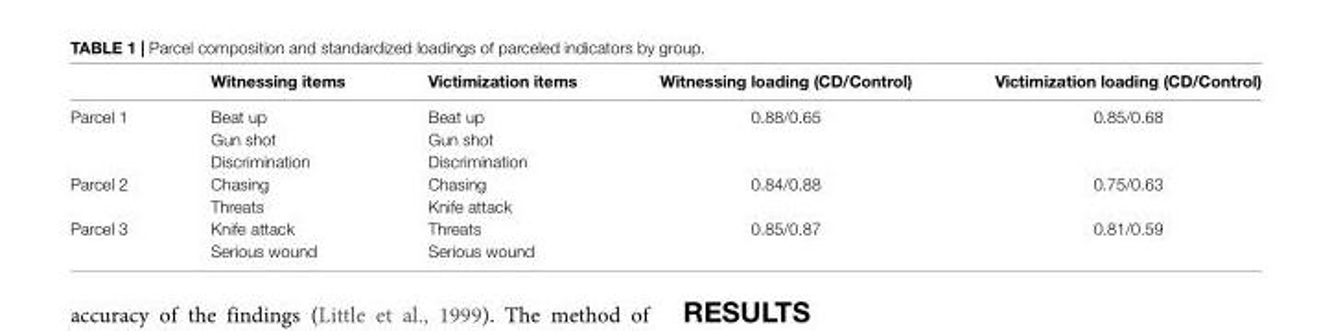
<table><thead><tr><td></td><td>Witnessing items</td><td>Victimization items</td><td>Witnessing loading (CD/Control)</td><td>Victimization loading (CD/Control)</td></tr></thead><tbody><tr><td rowspan="3">Parcel 1</td><td>Beat up</td><td>Beat up</td><td>0.88/0.65</td><td>0.85/0.68</td></tr><tr><td>Gun shot</td><td>Gun shot</td><td></td><td></td></tr><tr><td>Discrimination</td><td>Discrimination</td><td></td><td></td></tr><tr><td rowspan="2">Parcel 2</td><td>Chasing</td><td>Chasing</td><td>0.84/0.88</td><td>0.75/0.63</td></tr><tr><td>Threats</td><td>Knife attack</td><td></td><td></td></tr><tr><td rowspan="2">Parcel 3</td><td>Knife attack</td><td>Threats</td><td>0.85/0.87</td><td>0.81/0.59</td></tr><tr><td>Serious wound</td><td>Serious wound</td><td></td><td></td></tr></tbody></table>